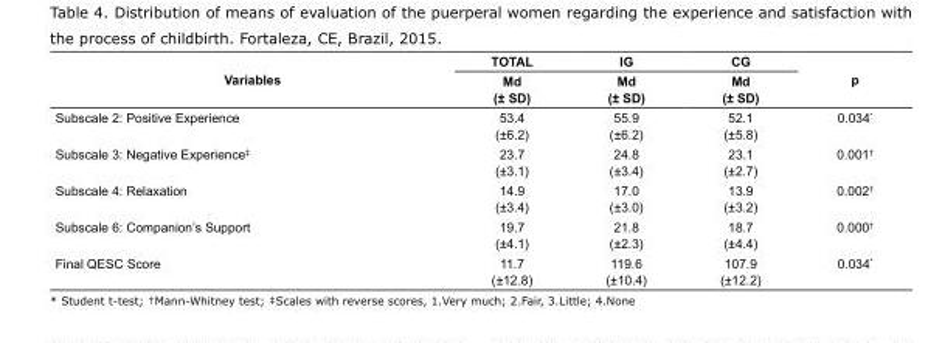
<table><tbody><tr><td rowspan="2">Variables</td><td>TOTAL</td><td>IG</td><td>CG</td><td rowspan="2">p</td></tr><tr><td>Md (± SD)</td><td>Md (± SD)</td><td>Md (± SD)</td></tr><tr><td>Subscale 2: Positive Experience</td><td>53.4 (±6.2)</td><td>55.9 (±6.2)</td><td>52.1 (±5.8)</td><td>0.034*</td></tr><tr><td>Subscale 3: Negative Experience<sup>‡</sup></td><td>23.7 (±3.1)</td><td>24.8 (±3.4)</td><td>23.1 (±2.7)</td><td>0.001<sup>†</sup></td></tr><tr><td>Subscale 4: Relaxation</td><td>14.9 (±3.4)</td><td>17.0 (±3.0)</td><td>13.9 (±3.2)</td><td>0.002<sup>†</sup></td></tr><tr><td>Subscale 6: Companion’s Support</td><td>19.7 (±4.1)</td><td>21.8 (±2.3)</td><td>18.7 (±4.4)</td><td>0.000<sup>†</sup></td></tr><tr><td>Final QESC Score</td><td>11.7 (±12.8)</td><td>119.6 (±10.4)</td><td>107.9 (±12.2)</td><td>0.034*</td></tr></tbody></table>